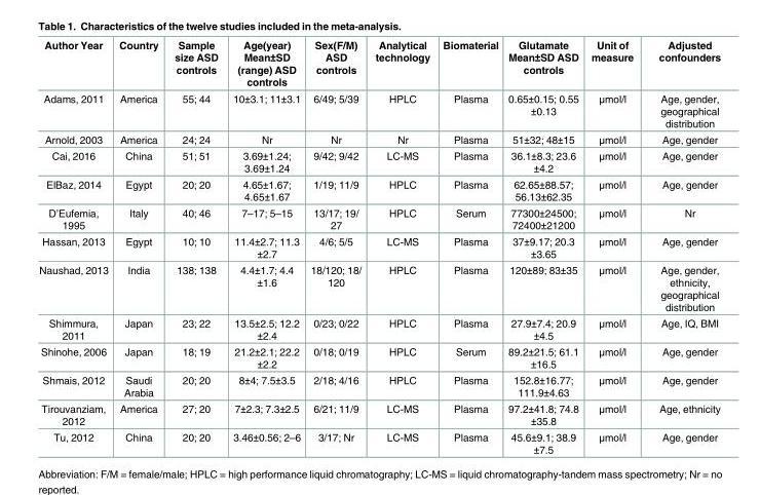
<table><thead><tr><td>Author Year</td><td>Country</td><td>Sample size ASD controls</td><td>Age(year) Mean±SD (range) ASD controls</td><td>Sex(F/M) ASD controls</td><td>Analytical technology</td><td>Biomaterial</td><td>Glutamate Mean±SD ASD controls</td><td>Unit of measure</td><td>Adjusted confounders</td></tr></thead><tbody><tr><td>Adams, 2011</td><td>America</td><td>55; 44</td><td>10±3.1; 11±3.1</td><td>6/49; 5/39</td><td>HPLC</td><td>Plasma</td><td>0.65±0.15; 0.55 ±0.13</td><td>μmol/l</td><td>Age, gender, geographical distribution</td></tr><tr><td>Arnold, 2003</td><td>America</td><td>24; 24</td><td>Nr</td><td>Nr</td><td>Nr</td><td>Plasma</td><td>51±32; 48±15</td><td>μmol/l</td><td>Age, gender</td></tr><tr><td>Cai, 2016</td><td>China</td><td>51; 51</td><td>3.69±1.24; 3.69±1.24</td><td>9/42; 9/42</td><td>LC-MS</td><td>Plasma</td><td>36.1±8.3; 23.6 ±4.2</td><td>μmol/l</td><td>Age, gender</td></tr><tr><td>ElBaz, 2014</td><td>Egypt</td><td>20; 20</td><td>4.65±1.67; 4.65±1.67</td><td>1/19; 11/9</td><td>HPLC</td><td>Plasma</td><td>62.65±88.57; 56.13±62.35</td><td>μmol/l</td><td>Age, gender</td></tr><tr><td>D’Eufemia, 1995</td><td>Italy</td><td>40; 46</td><td>7–17; 5–15</td><td>13/17; 19/ 27</td><td>HPLC</td><td>Serum</td><td>77300±24500; 72400±21200</td><td>μmol/l</td><td>Nr</td></tr><tr><td>Hassan, 2013</td><td>Egypt</td><td>10; 10</td><td>11.4±2.7; 11.3 ±2.7</td><td>4/6; 5/5</td><td>LC-MS</td><td>Plasma</td><td>37±9.17; 20.3 ±3.65</td><td>μmol/l</td><td>Age, gender</td></tr><tr><td>Naushad, 2013</td><td>India</td><td>138; 138</td><td>4.4±1.7; 4.4 ±1.6</td><td>18/120; 18/ 120</td><td>HPLC</td><td>Plasma</td><td>120±89; 83±35</td><td>μmol/l</td><td>Age, gender, ethnicity, geographical distribution</td></tr><tr><td>Shimmura, 2011</td><td>Japan</td><td>23; 22</td><td>13.5±2.5; 12.2 ±2.4</td><td>0/23; 0/22</td><td>HPLC</td><td>Plasma</td><td>27.9±7.4; 20.9 ±4.5</td><td>μmol/l</td><td>Age, IQ, BMI</td></tr><tr><td>Shinohe, 2006</td><td>Japan</td><td>18; 19</td><td>21.2±2.1; 22.2 ±2.2</td><td>0/18; 0/19</td><td>HPLC</td><td>Serum</td><td>89.2±21.5; 61.1 ±16.5</td><td>μmol/l</td><td>Age, gender</td></tr><tr><td>Shmais, 2012</td><td>Saudi Arabia</td><td>20; 20</td><td>8±4; 7.5±3.5</td><td>2/18; 4/16</td><td>HPLC</td><td>Plasma</td><td>152.8±16.77; 111.9±4.63</td><td>μmol/l</td><td>Age, gender</td></tr><tr><td>Tirouvanziam, 2012</td><td>America</td><td>27; 20</td><td>7±2.3; 7.3±2.5</td><td>6/21; 11/9</td><td>LC-MS</td><td>Plasma</td><td>97.2±41.8; 74.8 ±35.8</td><td>μmol/l</td><td>Age, ethnicity</td></tr><tr><td>Tu, 2012</td><td>China</td><td>20; 20</td><td>3.46±0.56; 2–6</td><td>3/17; Nr</td><td>LC-MS</td><td>Plasma</td><td>45.6±9.1; 38.9 ±7.5</td><td>μmol/l</td><td>Age, gender</td></tr></tbody></table>